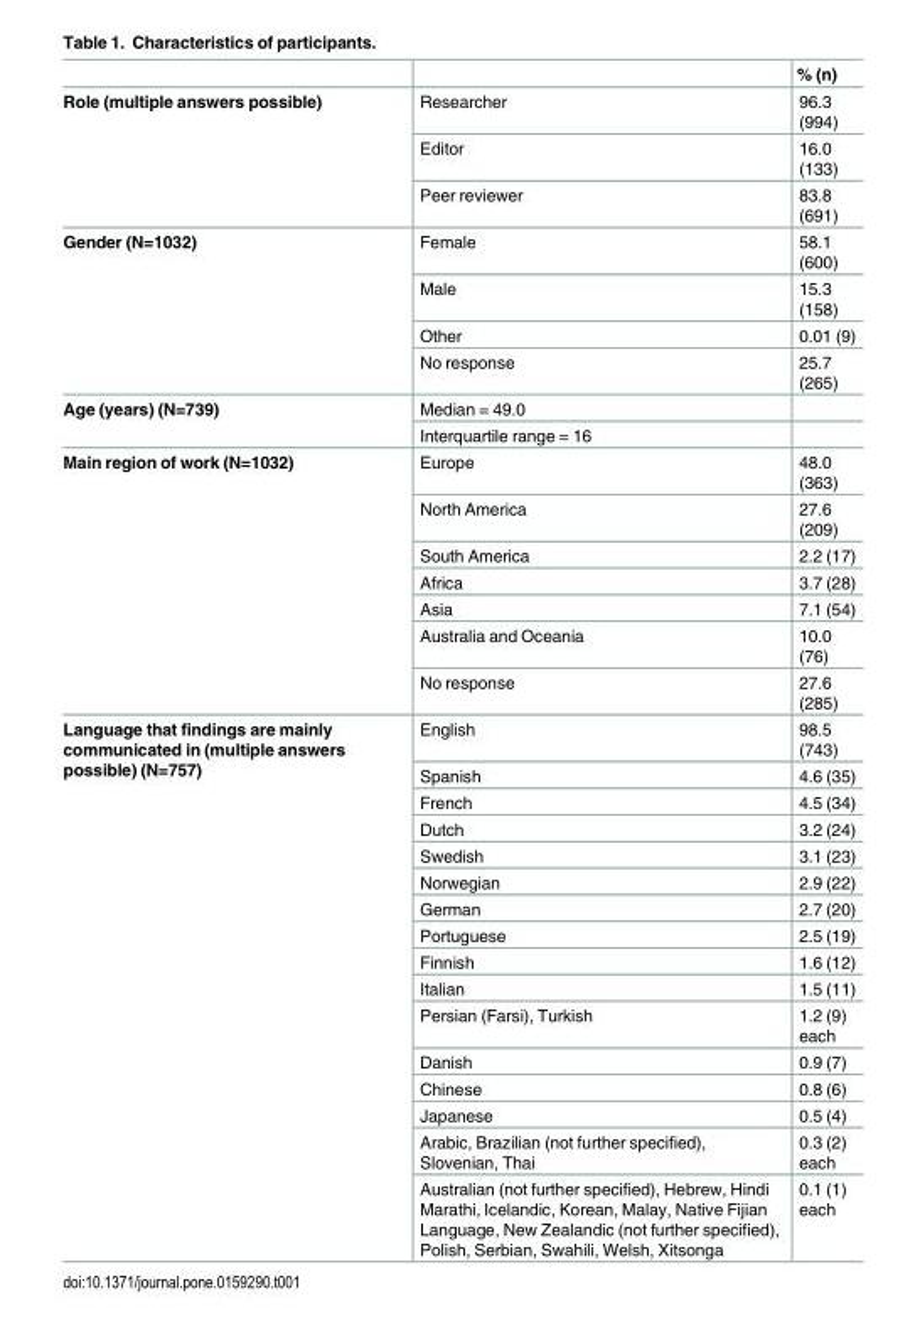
<table><thead><tr><td></td><td></td><td>% (n)</td></tr></thead><tbody><tr><td rowspan="3">Role (multiple answers possible)</td><td>Researcher</td><td>96.3 (994)</td></tr><tr><td>Editor</td><td>16.0 (133)</td></tr><tr><td>Peer reviewer</td><td>83.8 (691)</td></tr><tr><td rowspan="4">Gender (N=1032)</td><td>Female</td><td>58.1 (600)</td></tr><tr><td>Male</td><td>15.3 (158)</td></tr><tr><td>Other</td><td>0.01 (9)</td></tr><tr><td>No response</td><td>25.7 (265)</td></tr><tr><td rowspan="2">Age (years) (N=739)</td><td>Median = 49.0</td><td></td></tr><tr><td>Interquartile range = 16</td><td></td></tr><tr><td rowspan="7">Main region of work (N=1032)</td><td>Europe</td><td>48.0 (363)</td></tr><tr><td>North America</td><td>27.6 (209)</td></tr><tr><td>South America</td><td>2.2 (17)</td></tr><tr><td>Africa</td><td>3.7 (28)</td></tr><tr><td>Asia</td><td>7.1 (54)</td></tr><tr><td>Australia and Oceania</td><td>10.0 (76)</td></tr><tr><td>No response</td><td>27.6 (285)</td></tr><tr><td rowspan="16">Language that findings are mainly communicated in (multiple answers possible) (N=757)</td><td>English</td><td>98.5 (743)</td></tr><tr><td>Spanish</td><td>4.6 (35)</td></tr><tr><td>French</td><td>4.5 (34)</td></tr><tr><td>Dutch</td><td>3.2 (24)</td></tr><tr><td>Swedish</td><td>3.1 (23)</td></tr><tr><td>Norwegian</td><td>2.9 (22)</td></tr><tr><td>German</td><td>2.7 (20)</td></tr><tr><td>Portuguese</td><td>2.5 (19)</td></tr><tr><td>Finnish</td><td>1.6 (12)</td></tr><tr><td>Italian</td><td>1.5 (11)</td></tr><tr><td>Persian (Farsi), Turkish</td><td>1.2 (9) each</td></tr><tr><td>Danish</td><td>0.9 (7)</td></tr><tr><td>Chinese</td><td>0.8 (6)</td></tr><tr><td>Japanese</td><td>0.5 (4)</td></tr><tr><td>Arabic, Brazilian (not further specified), Slovenian, Thai</td><td>0.3 (2) each</td></tr><tr><td>Australian (not further specified), Hebrew, Hindi Marathi, Icelandic, Korean, Malay, Native Fijian Language, New Zealandic (not further specified), Polish, Serbian, Swahili, Welsh, Xitsonga</td><td>0.1 (1) each</td></tr></tbody></table>